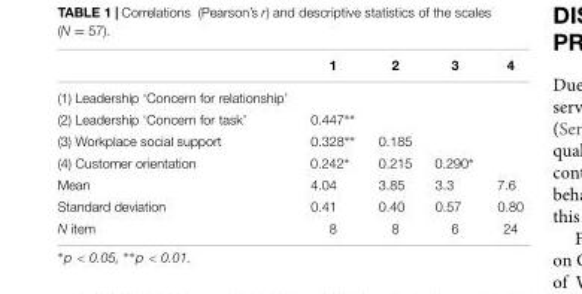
<table><thead><tr><td></td><td>1</td><td>2</td><td>3</td><td>4</td></tr></thead><tbody><tr><td colspan="5">(1) Leadership ‘Concern for relationship’</td></tr><tr><td>(2) Leadership ‘Concern for task’</td><td>0.447∗∗</td><td></td><td></td><td></td></tr><tr><td>(3) Workplace social support</td><td>0.328∗∗</td><td>0.185</td><td></td><td></td></tr><tr><td>(4) Customer orientation</td><td>0.242∗</td><td>0.215</td><td>0.290∗</td><td></td></tr><tr><td>Mean</td><td>4.04</td><td>3.85</td><td>3.3</td><td>7.6</td></tr><tr><td>Standard deviation</td><td>0.41</td><td>0.40</td><td>0.57</td><td>0.80</td></tr><tr><td>N item</td><td>8</td><td>8</td><td>6</td><td>24</td></tr></tbody></table>